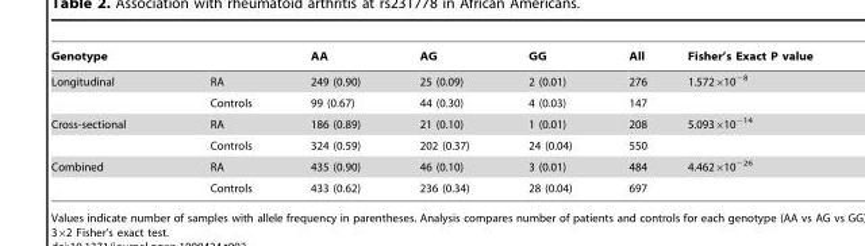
<table><thead><tr><td>Genotype</td><td></td><td>AA</td><td>AG</td><td>GG</td><td>All</td><td>Fisher’s Exact P value</td></tr></thead><tbody><tr><td rowspan="2">Longitudinal</td><td>RA</td><td>249 (0.90)</td><td>25 (0.09)</td><td>2 (0.01)</td><td>276</td><td>1.572×10−8</td></tr><tr><td>Controls</td><td>99 (0.67)</td><td>44 (0.30)</td><td>4 (0.03)</td><td>147</td><td></td></tr><tr><td rowspan="2">Cross-sectional</td><td>RA</td><td>186 (0.89)</td><td>21 (0.10)</td><td>1 (0.01)</td><td>208</td><td>5.093×10−14</td></tr><tr><td>Controls</td><td>324 (0.59)</td><td>202 (0.37)</td><td>24 (0.04)</td><td>550</td><td></td></tr><tr><td rowspan="2">Combined</td><td>RA</td><td>435 (0.90)</td><td>46 (0.10)</td><td>3 (0.01)</td><td>484</td><td>4.462×10−26</td></tr><tr><td>Controls</td><td>433 (0.62)</td><td>236 (0.34)</td><td>28 (0.04)</td><td>697</td><td></td></tr></tbody></table>